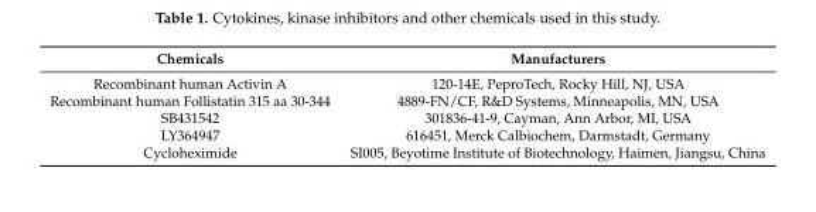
<table><thead><tr><td>Chemicals</td><td>Manufacturers</td></tr></thead><tbody><tr><td>Recombinant human Activin A</td><td>120-14E, PeproTech, Rocky Hill, NJ, USA</td></tr><tr><td>Recombinant human Follistatin 315 aa 30-344</td><td>4889-FN/CF, R&amp;D Systems, Minneapolis, MN, USA</td></tr><tr><td>SB431542</td><td>301836-41-9, Cayman, Ann Arbor, MI, USA</td></tr><tr><td>LY364947</td><td>616451, Merck Calbiochem, Darmstadt, Germany</td></tr><tr><td>Cycloheximide</td><td>SI005, Beyotime Institute of Biotechnology, Haimen, Jiangsu, China</td></tr></tbody></table>